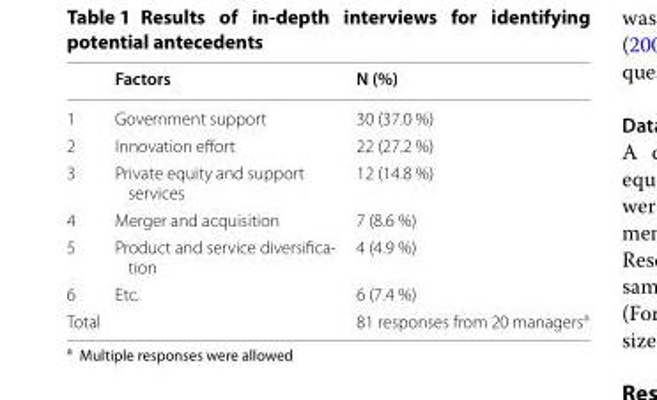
<table><thead><tr><td></td><td>Factors</td><td>N (%)</td></tr></thead><tbody><tr><td>1</td><td>Government support</td><td>30 (37.0 %)</td></tr><tr><td>2</td><td>Innovation effort</td><td>22 (27.2 %)</td></tr><tr><td>3</td><td>Private equity and support services</td><td>12 (14.8 %)</td></tr><tr><td>4</td><td>Merger and acquisition</td><td>7 (8.6 %)</td></tr><tr><td>5</td><td>Product and service diversifica‑ tion</td><td>4 (4.9 %)</td></tr><tr><td>6</td><td>Etc.</td><td>6 (7.4 %)</td></tr><tr><td>Total</td><td></td><td>81 responses from 20 managers<sup>a</sup></td></tr></tbody></table>